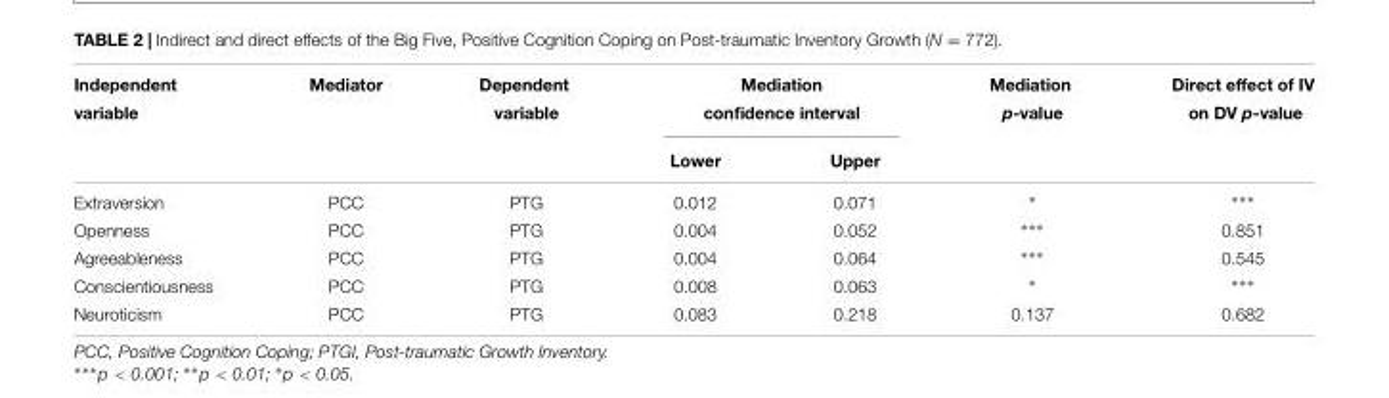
<table><thead><tr><td rowspan="3">Independent variable</td><td rowspan="3">Mediator</td><td rowspan="3">Dependent variable</td><td rowspan="2" colspan="2">Mediation confidence interval</td><td rowspan="3">Mediation p-value</td><td rowspan="3">Direct effect of IV on DV p-value</td></tr><tr></tr><tr><td>Lower</td><td>Upper</td></tr></thead><tbody><tr><td>Extraversion</td><td>PCC</td><td>PTG</td><td>0.012</td><td>0.071</td><td>∗</td><td>∗∗∗</td></tr><tr><td>Openness</td><td>PCC</td><td>PTG</td><td>0.004</td><td>0.052</td><td>∗∗∗</td><td>0.851</td></tr><tr><td>Agreeableness</td><td>PCC</td><td>PTG</td><td>0.004</td><td>0.064</td><td>∗∗∗</td><td>0.545</td></tr><tr><td>Conscientiousness</td><td>PCC</td><td>PTG</td><td>0.008</td><td>0.063</td><td>∗</td><td>∗∗∗</td></tr><tr><td>Neuroticism</td><td>PCC</td><td>PTG</td><td>0.083</td><td>0.218</td><td>0.137</td><td>0.682</td></tr></tbody></table>